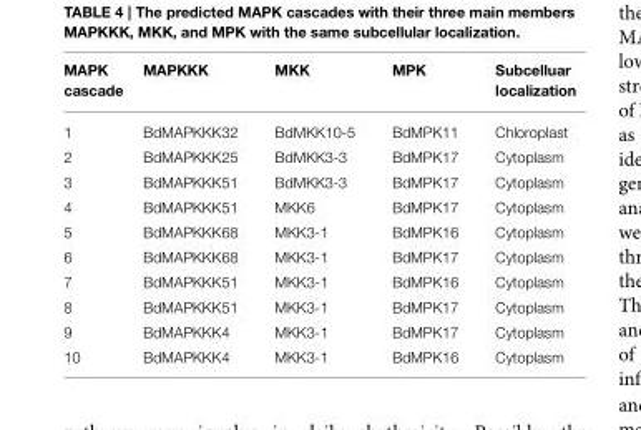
<table><thead><tr><td>MAPK cascade</td><td>MAPKKK</td><td>MKK</td><td>MPK</td><td>Subcelluar localization</td></tr></thead><tbody><tr><td>1</td><td>BdMAPKKK32</td><td>BdMKK10-5</td><td>BdMPK11</td><td>Chloroplast</td></tr><tr><td>2</td><td>BdMAPKKK25</td><td>BdMKK3-3</td><td>BdMPK17</td><td>Cytoplasm</td></tr><tr><td>3</td><td>BdMAPKKK51</td><td>BdMKK3-3</td><td>BdMPK17</td><td>Cytoplasm</td></tr><tr><td>4</td><td>BdMAPKKK51</td><td>MKK6</td><td>BdMPK17</td><td>Cytoplasm</td></tr><tr><td>5</td><td>BdMAPKKK68</td><td>MKK3-1</td><td>BdMPK16</td><td>Cytoplasm</td></tr><tr><td>6</td><td>BdMAPKKK68</td><td>MKK3-1</td><td>BdMPK17</td><td>Cytoplasm</td></tr><tr><td>7</td><td>BdMAPKKK51</td><td>MKK3-1</td><td>BdMPK16</td><td>Cytoplasm</td></tr><tr><td>8</td><td>BdMAPKKK51</td><td>MKK3-1</td><td>BdMPK17</td><td>Cytoplasm</td></tr><tr><td>9</td><td>BdMAPKKK4</td><td>MKK3-1</td><td>BdMPK17</td><td>Cytoplasm</td></tr><tr><td>10</td><td>BdMAPKKK4</td><td>MKK3-1</td><td>BdMPK16</td><td>Cytoplasm</td></tr></tbody></table>